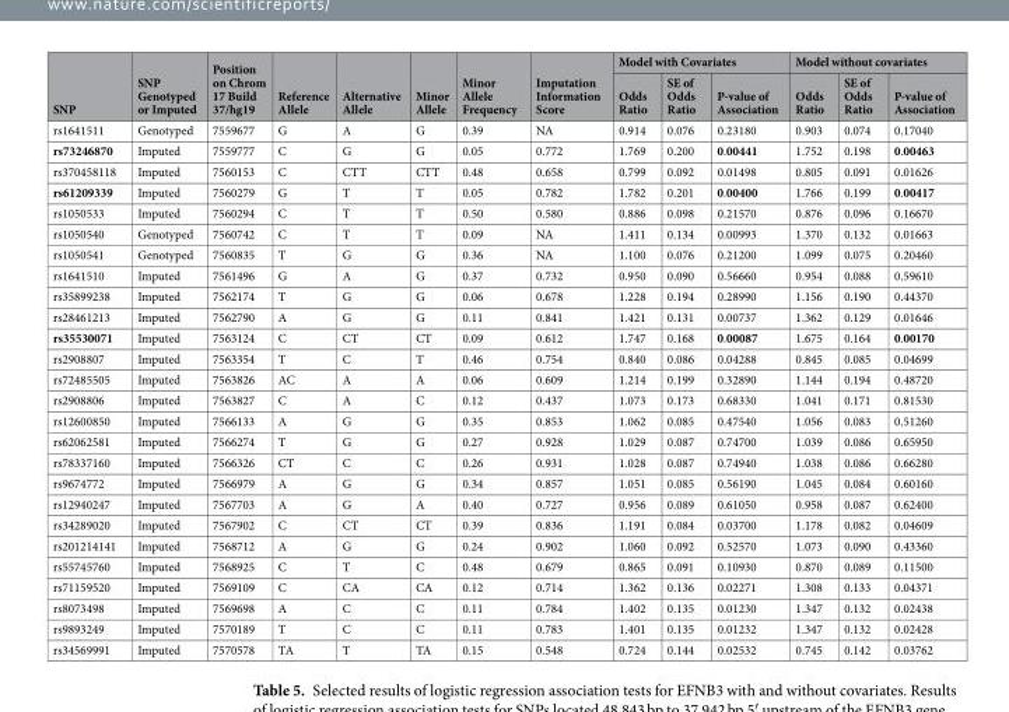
<table><thead><tr><td rowspan="2">SNP</td><td rowspan="2">SNP Genotyped or Imputed</td><td rowspan="2">Position on Chrom 17 Build 37/hg19</td><td rowspan="2">Reference Allele</td><td rowspan="2">Alternative Allele</td><td rowspan="2">Minor Allele</td><td rowspan="2">Minor Allele Frequency</td><td rowspan="2">Imputation Information Score</td><td colspan="3">Model with Covariates</td><td colspan="3">Model without covariates</td></tr><tr><td>Odds Ratio</td><td>SE of Odds Ratio</td><td>P-value of Association</td><td>Odds Ratio</td><td>SE of Odds Ratio</td><td>P-value of Association</td></tr></thead><tbody><tr><td>rs1641511</td><td>Genotyped</td><td>7559677</td><td>G</td><td>A</td><td>G</td><td>0.39</td><td>NA</td><td>0.914</td><td>0.076</td><td>0.23180</td><td>0.903</td><td>0.074</td><td>0.17040</td></tr><tr><td>rs73246870</td><td>Imputed</td><td>7559777</td><td>C</td><td>G</td><td>G</td><td>0.05</td><td>0.772</td><td>1.769</td><td>0.200</td><td>0.00441</td><td>1.752</td><td>0.198</td><td>0.00463</td></tr><tr><td>rs370458118</td><td>Imputed</td><td>7560153</td><td>C</td><td>CTT</td><td>CTT</td><td>0.48</td><td>0.658</td><td>0.799</td><td>0.092</td><td>0.01498</td><td>0.805</td><td>0.091</td><td>0.01626</td></tr><tr><td>rs61209339</td><td>Imputed</td><td>7560279</td><td>G</td><td>T</td><td>T</td><td>0.05</td><td>0.782</td><td>1.782</td><td>0.201</td><td>0.00400</td><td>1.766</td><td>0.199</td><td>0.00417</td></tr><tr><td>rs1050533</td><td>Imputed</td><td>7560294</td><td>C</td><td>T</td><td>T</td><td>0.50</td><td>0.580</td><td>0.886</td><td>0.098</td><td>0.21570</td><td>0.876</td><td>0.096</td><td>0.16670</td></tr><tr><td>rs1050540</td><td>Genotyped</td><td>7560742</td><td>C</td><td>T</td><td>T</td><td>0.09</td><td>NA</td><td>1.411</td><td>0.134</td><td>0.00993</td><td>1.370</td><td>0.132</td><td>0.01663</td></tr><tr><td>rs1050541</td><td>Genotyped</td><td>7560835</td><td>T</td><td>G</td><td>G</td><td>0.36</td><td>NA</td><td>1.100</td><td>0.076</td><td>0.21200</td><td>1.099</td><td>0.075</td><td>0.20460</td></tr><tr><td>rs1641510</td><td>Imputed</td><td>7561496</td><td>G</td><td>A</td><td>G</td><td>0.37</td><td>0.732</td><td>0.950</td><td>0.090</td><td>0.56660</td><td>0.954</td><td>0.088</td><td>0.59610</td></tr><tr><td>rs35899238</td><td>Imputed</td><td>7562174</td><td>T</td><td>G</td><td>G</td><td>0.06</td><td>0.678</td><td>1.228</td><td>0.194</td><td>0.28990</td><td>1.156</td><td>0.190</td><td>0.44370</td></tr><tr><td>rs28461213</td><td>Imputed</td><td>7562790</td><td>A</td><td>G</td><td>G</td><td>0.11</td><td>0.841</td><td>1.421</td><td>0.131</td><td>0.00737</td><td>1.362</td><td>0.129</td><td>0.01646</td></tr><tr><td>rs35530071</td><td>Imputed</td><td>7563124</td><td>C</td><td>CT</td><td>CT</td><td>0.09</td><td>0.612</td><td>1.747</td><td>0.168</td><td>0.00087</td><td>1.675</td><td>0.164</td><td>0.00170</td></tr><tr><td>rs2908807</td><td>Imputed</td><td>7563354</td><td>T</td><td>C</td><td>T</td><td>0.46</td><td>0.754</td><td>0.840</td><td>0.086</td><td>0.04288</td><td>0.845</td><td>0.085</td><td>0.04699</td></tr><tr><td>rs72485505</td><td>Imputed</td><td>7563826</td><td>AC</td><td>A</td><td>A</td><td>0.06</td><td>0.609</td><td>1.214</td><td>0.199</td><td>0.32890</td><td>1.144</td><td>0.194</td><td>0.48720</td></tr><tr><td>rs2908806</td><td>Imputed</td><td>7563827</td><td>C</td><td>A</td><td>C</td><td>0.12</td><td>0.437</td><td>1.073</td><td>0.173</td><td>0.68330</td><td>1.041</td><td>0.171</td><td>0.81530</td></tr><tr><td>rs12600850</td><td>Imputed</td><td>7566133</td><td>A</td><td>G</td><td>G</td><td>0.35</td><td>0.853</td><td>1.062</td><td>0.085</td><td>0.47540</td><td>1.056</td><td>0.083</td><td>0.51260</td></tr><tr><td>rs62062581</td><td>Imputed</td><td>7566274</td><td>T</td><td>G</td><td>G</td><td>0.27</td><td>0.928</td><td>1.029</td><td>0.087</td><td>0.74700</td><td>1.039</td><td>0.086</td><td>0.65950</td></tr><tr><td>rs78337160</td><td>Imputed</td><td>7566326</td><td>CT</td><td>C</td><td>C</td><td>0.26</td><td>0.931</td><td>1.028</td><td>0.087</td><td>0.74940</td><td>1.038</td><td>0.086</td><td>0.66280</td></tr><tr><td>rs9674772</td><td>Imputed</td><td>7566979</td><td>A</td><td>G</td><td>G</td><td>0.34</td><td>0.857</td><td>1.051</td><td>0.085</td><td>0.56190</td><td>1.045</td><td>0.084</td><td>0.60160</td></tr><tr><td>rs12940247</td><td>Imputed</td><td>7567703</td><td>A</td><td>G</td><td>A</td><td>0.40</td><td>0.727</td><td>0.956</td><td>0.089</td><td>0.61050</td><td>0.958</td><td>0.087</td><td>0.62400</td></tr><tr><td>rs34289020</td><td>Imputed</td><td>7567902</td><td>C</td><td>CT</td><td>CT</td><td>0.39</td><td>0.836</td><td>1.191</td><td>0.084</td><td>0.03700</td><td>1.178</td><td>0.082</td><td>0.04609</td></tr><tr><td>rs201214141</td><td>Imputed</td><td>7568712</td><td>A</td><td>G</td><td>G</td><td>0.24</td><td>0.902</td><td>1.060</td><td>0.092</td><td>0.52570</td><td>1.073</td><td>0.090</td><td>0.43360</td></tr><tr><td>rs55745760</td><td>Imputed</td><td>7568925</td><td>C</td><td>T</td><td>C</td><td>0.48</td><td>0.679</td><td>0.865</td><td>0.091</td><td>0.10930</td><td>0.870</td><td>0.089</td><td>0.11500</td></tr><tr><td>rs71159520</td><td>Imputed</td><td>7569109</td><td>C</td><td>CA</td><td>CA</td><td>0.12</td><td>0.714</td><td>1.362</td><td>0.136</td><td>0.02271</td><td>1.308</td><td>0.133</td><td>0.04371</td></tr><tr><td>rs8073498</td><td>Imputed</td><td>7569698</td><td>A</td><td>C</td><td>C</td><td>0.11</td><td>0.784</td><td>1.402</td><td>0.135</td><td>0.01230</td><td>1.347</td><td>0.132</td><td>0.02438</td></tr><tr><td>rs9893249</td><td>Imputed</td><td>7570189</td><td>T</td><td>C</td><td>C</td><td>0.11</td><td>0.783</td><td>1.401</td><td>0.135</td><td>0.01232</td><td>1.347</td><td>0.132</td><td>0.02428</td></tr><tr><td>rs34569991</td><td>Imputed</td><td>7570578</td><td>TA</td><td>T</td><td>TA</td><td>0.15</td><td>0.548</td><td>0.724</td><td>0.144</td><td>0.02532</td><td>0.745</td><td>0.142</td><td>0.03762</td></tr></tbody></table>